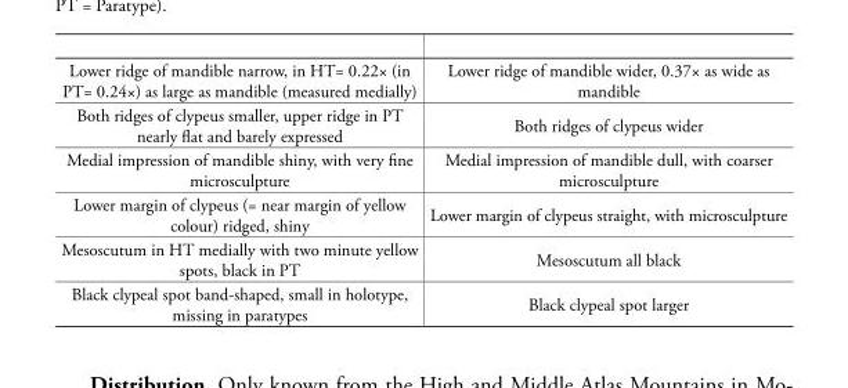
<table><tbody><tr><td>Lower ridge of mandible narrow, in HT= 0.22× (in PT= 0.24×) as large as mandible (measured medially)</td><td>Lower ridge of mandible wider, 0.37× as wide as mandible</td></tr><tr><td>Both ridges of clypeus smaller, upper ridge in PT nearly flat and barely expressed</td><td>Both ridges of clypeus wider</td></tr><tr><td>Medial impression of mandible shiny, with very fine microsculpture</td><td>Medial impression of mandible dull, with coarser microsculpture</td></tr><tr><td>Lower margin of clypeus (= near margin of yellow colour) ridged, shiny</td><td>Lower margin of clypeus straight, with microsculpture</td></tr><tr><td>Mesoscutum in HT medially with two minute yellow spots, black in PT</td><td>Mesoscutum all black</td></tr><tr><td>Black clypeal spot band-shaped, small in holotype, missing in paratypes</td><td>Black clypeal spot larger</td></tr></tbody></table>